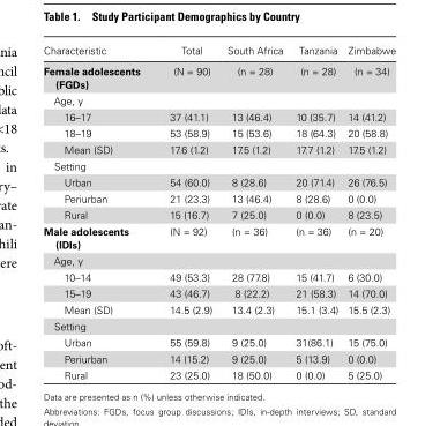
<table><thead><tr><td>Characteristic</td><td>Total</td><td>South Africa</td><td>Tanzania</td><td>Zimbabwe</td></tr></thead><tbody><tr><td>Female adolescents (FGDs)</td><td>(N = 90)</td><td>(n = 28)</td><td>(n = 28)</td><td>(n = 34)</td></tr><tr><td colspan="5">Age, y</td></tr><tr><td>16–17</td><td>37 (41.1)</td><td>13 (46.4)</td><td>10 (35.7)</td><td>14 (41.2)</td></tr><tr><td>18–19</td><td>53 (58.9)</td><td>15 (53.6)</td><td>18 (64.3)</td><td>20 (58.8)</td></tr><tr><td>Mean (SD)</td><td>17.6 (1.2)</td><td>17.5 (1.2)</td><td>17.7 (1.2)</td><td>17.5 (1.2)</td></tr><tr><td colspan="5">Setting</td></tr><tr><td>Urban</td><td>54 (60.0)</td><td>8 (28.6)</td><td>20 (71.4)</td><td>26 (76.5)</td></tr><tr><td>Periurban</td><td>21 (23.3)</td><td>13 (46.4)</td><td>8 (28.6)</td><td>0 (0.0)</td></tr><tr><td>Rural</td><td>15 (16.7)</td><td>7 (25.0)</td><td>0 (0.0)</td><td>8 (23.5)</td></tr><tr><td>Male adolescents (IDIs)</td><td>(N = 92)</td><td>(n = 36)</td><td>(n = 36)</td><td>(n = 20)</td></tr><tr><td colspan="5">Age, y</td></tr><tr><td>10–14</td><td>49 (53.3)</td><td>28 (77.8)</td><td>15 (41.7)</td><td>6 (30.0)</td></tr><tr><td>15–19</td><td>43 (46.7)</td><td>8 (22.2)</td><td>21 (58.3)</td><td>14 (70.0)</td></tr><tr><td>Mean (SD)</td><td>14.5 (2.9)</td><td>13.4 (2.3)</td><td>15.1 (3.4)</td><td>15.5 (2.3)</td></tr><tr><td colspan="5">Setting</td></tr><tr><td>Urban</td><td>55 (59.8)</td><td>9 (25.0)</td><td>31(86.1)</td><td>15 (75.0)</td></tr><tr><td>Periurban</td><td>14 (15.2)</td><td>9 (25.0)</td><td>5 (13.9)</td><td>0 (0.0)</td></tr><tr><td>Rural</td><td>23 (25.0)</td><td>18 (50.0)</td><td>0 (0.0)</td><td>5 (25.0)</td></tr></tbody></table>